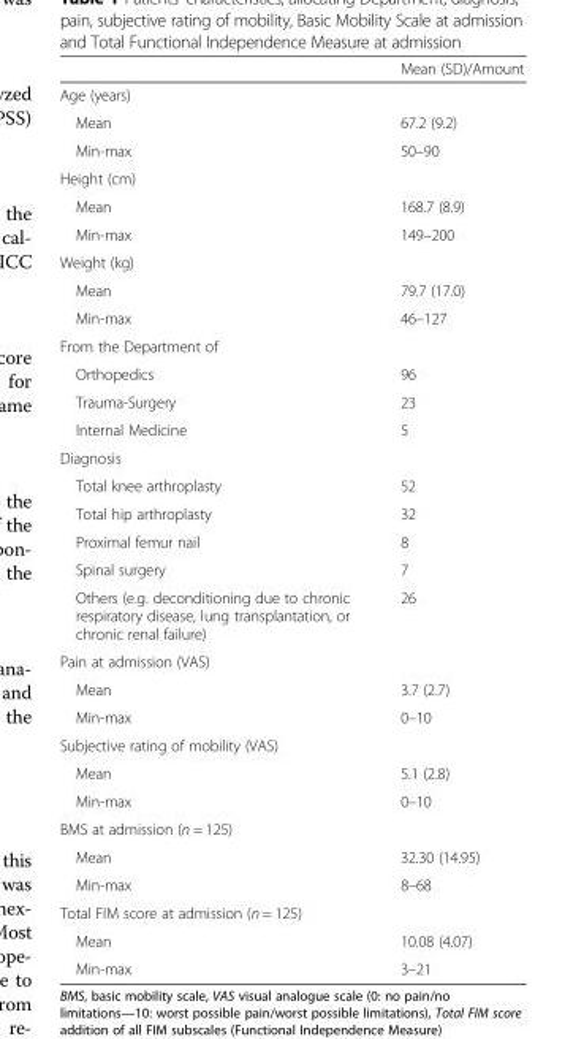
<table><thead><tr><td></td><td>Mean (SD)/Amount</td></tr></thead><tbody><tr><td colspan="2">Age (years)</td></tr><tr><td>Mean</td><td>67.2 (9.2)</td></tr><tr><td>Min-max</td><td>50–90</td></tr><tr><td colspan="2">Height (cm)</td></tr><tr><td>Mean</td><td>168.7 (8.9)</td></tr><tr><td>Min-max</td><td>149–200</td></tr><tr><td colspan="2">Weight (kg)</td></tr><tr><td>Mean</td><td>79.7 (17.0)</td></tr><tr><td>Min-max</td><td>46–127</td></tr><tr><td colspan="2">From the Department of</td></tr><tr><td>Orthopedics</td><td>96</td></tr><tr><td>Trauma-Surgery</td><td>23</td></tr><tr><td>Internal Medicine</td><td>5</td></tr><tr><td colspan="2">Diagnosis</td></tr><tr><td>Total knee arthroplasty</td><td>52</td></tr><tr><td>Total hip arthroplasty</td><td>32</td></tr><tr><td>Proximal femur nail</td><td>8</td></tr><tr><td>Spinal surgery</td><td>7</td></tr><tr><td>Others (e.g. deconditioning due to chronic respiratory disease, lung transplantation, or chronic renal failure)</td><td>26</td></tr><tr><td colspan="2">Pain at admission (VAS)</td></tr><tr><td>Mean</td><td>3.7 (2.7)</td></tr><tr><td>Min-max</td><td>0–10</td></tr><tr><td colspan="2">Subjective rating of mobility (VAS)</td></tr><tr><td>Mean</td><td>5.1 (2.8)</td></tr><tr><td>Min-max</td><td>0–10</td></tr><tr><td colspan="2">BMS at admission (n = 125)</td></tr><tr><td>Mean</td><td>32.30 (14.95)</td></tr><tr><td>Min-max</td><td>8–68</td></tr><tr><td colspan="2">Total FIM score at admission (n = 125)</td></tr><tr><td>Mean</td><td>10.08 (4.07)</td></tr><tr><td>Min-max</td><td>3–21</td></tr></tbody></table>